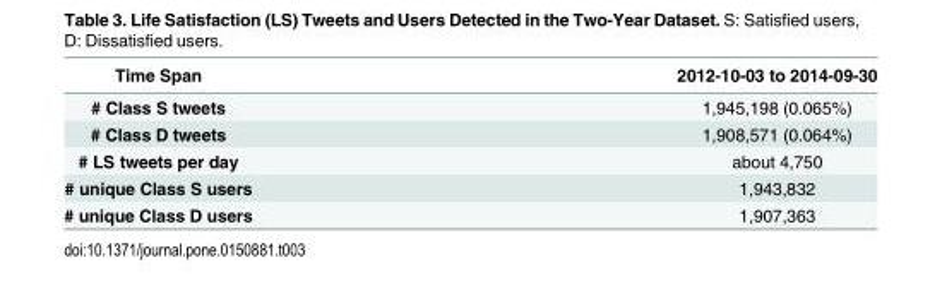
<table><thead><tr><td>Time Span</td><td>2012-10-03 to 2014-09-30</td></tr></thead><tbody><tr><td># Class S tweets</td><td>1,945,198 (0.065%)</td></tr><tr><td># Class D tweets</td><td>1,908,571 (0.064%)</td></tr><tr><td># LS tweets per day</td><td>about 4,750</td></tr><tr><td># unique Class S users</td><td>1,943,832</td></tr><tr><td># unique Class D users</td><td>1,907,363</td></tr></tbody></table>